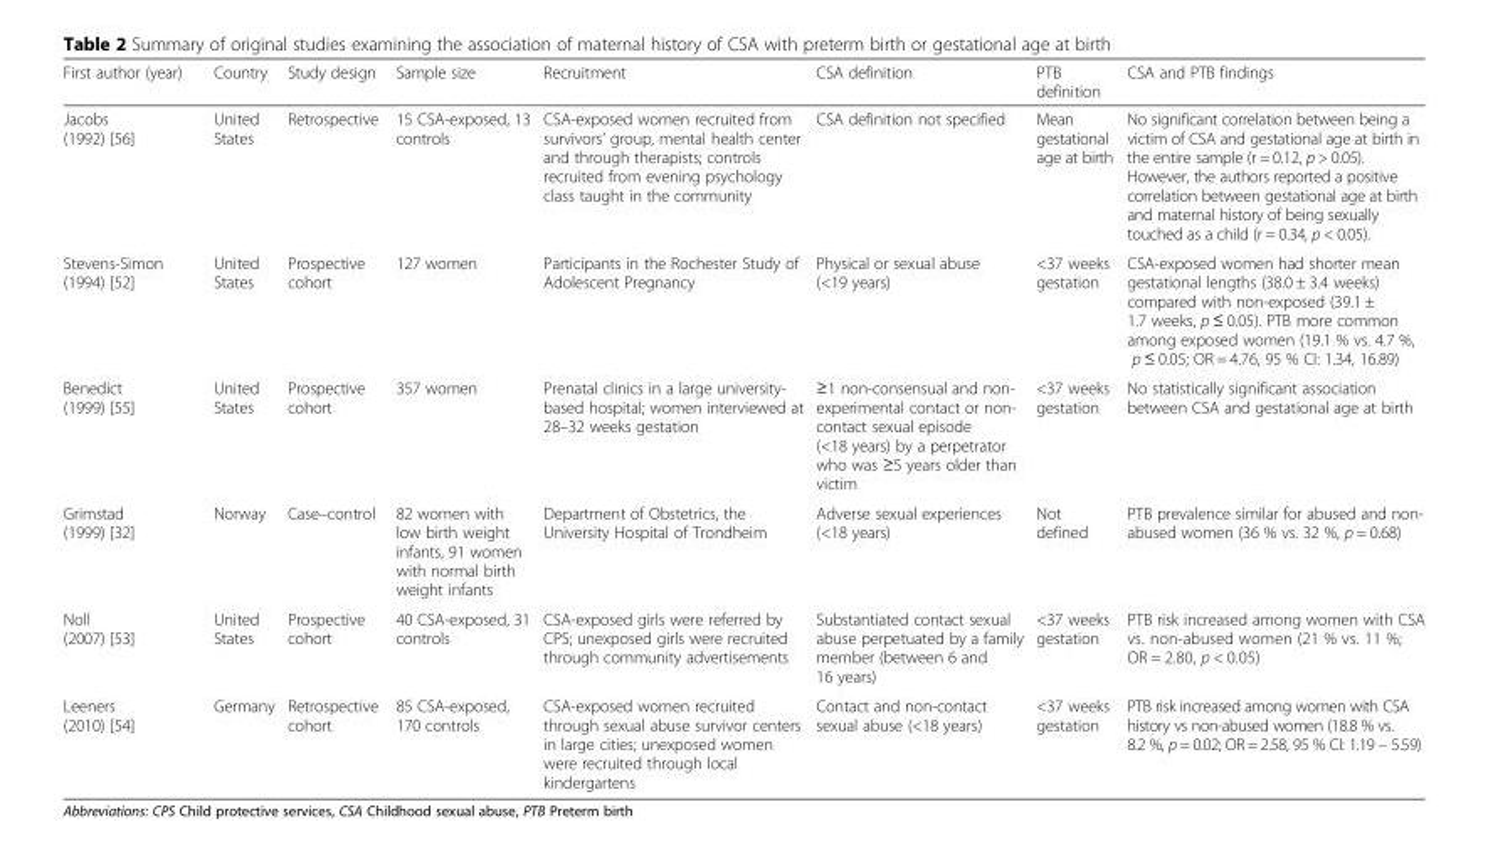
<table><thead><tr><td>First author (year)</td><td>Country</td><td>Study design</td><td>Sample size</td><td>Recruitment</td><td>CSA definition</td><td>PTB definition</td><td>CSA and PTB findings</td></tr></thead><tbody><tr><td>Jacobs (1992) [56]</td><td>United States</td><td>Retrospective</td><td>15 CSA-exposed, 13 controls</td><td>CSA-exposed women recruited from survivors’ group, mental health center and through therapists; controls recruited from evening psychology class taught in the community</td><td>CSA definition not specified</td><td>Mean gestational age at birth</td><td>No significant correlation between being a victim of CSA and gestational age at birth in the entire sample (r = 0.12, p &gt; 0.05). However, the authors reported a positive correlation between gestational age at birth and maternal history of being sexually touched as a child (r = 0.34, p &lt; 0.05).</td></tr><tr><td>Stevens-Simon (1994) [52]</td><td>United States</td><td>Prospective cohort</td><td>127 women</td><td>Participants in the Rochester Study of Adolescent Pregnancy</td><td>Physical or sexual abuse (&lt;19 years)</td><td>&lt;37 weeks gestation</td><td>CSA-exposed women had shorter mean gestational lengths (38.0 ± 3.4 weeks) compared with non-exposed (39.1 ± 1.7 weeks, p ≤ 0.05). PTB more common among exposed women (19.1 % vs. 4.7 %, p ≤ 0.05; OR = 4.76, 95 % CI: 1.34, 16.89)</td></tr><tr><td>Benedict (1999) [55]</td><td>United States</td><td>Prospective cohort</td><td>357 women</td><td>Prenatal clinics in a large university- based hospital; women interviewed at 28–32 weeks gestation</td><td>≥1 non-consensual and non- experimental contact or non- contact sexual episode (&lt;18 years) by a perpetrator who was ≥5 years older than victim</td><td>&lt;37 weeks gestation</td><td>No statistically significant association between CSA and gestational age at birth</td></tr><tr><td>Grimstad (1999) [32]</td><td>Norway</td><td>Case–control</td><td>82 women with low birth weight infants, 91 women with normal birth weight infants</td><td>Department of Obstetrics, the University Hospital of Trondheim</td><td>Adverse sexual experiences (&lt;18 years)</td><td>Not defined</td><td>PTB prevalence similar for abused and non- abused women (36 % vs. 32 %, p = 0.68)</td></tr><tr><td>Noll (2007) [53]</td><td>United States</td><td>Prospective cohort</td><td>40 CSA-exposed, 31 controls</td><td>CSA-exposed girls were referred by CPS; unexposed girls were recruited through community advertisements</td><td>Substantiated contact sexual abuse perpetuated by a family member (between 6 and 16 years)</td><td>&lt;37 weeks gestation</td><td>PTB risk increased among women with CSA vs. non-abused women (21 % vs. 11 %; OR = 2.80, p &lt; 0.05)</td></tr><tr><td>Leeners (2010) [54]</td><td>Germany</td><td>Retrospective cohort</td><td>85 CSA-exposed, 170 controls</td><td>CSA-exposed women recruited through sexual abuse survivor centers in large cities; unexposed women were recruited through local kindergartens</td><td>Contact and non-contact sexual abuse (&lt;18 years)</td><td>&lt;37 weeks gestation</td><td>PTB risk increased among women with CSA history vs non-abused women (18.8 % vs. 8.2 %, p = 0.02; OR = 2.58, 95 % CI: 1.19 – 5.59)</td></tr></tbody></table>